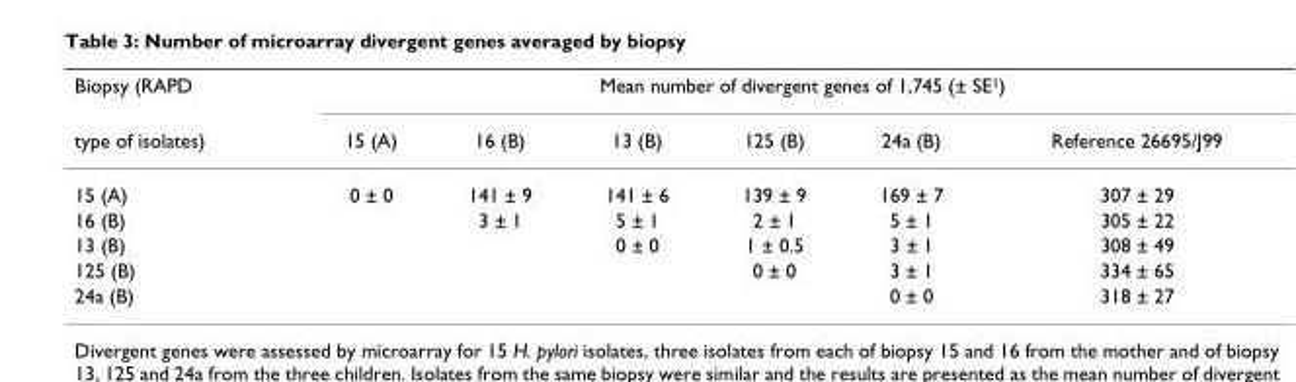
<table><thead><tr><td rowspan="2">Biopsy (RAPD type of isolates)</td><td colspan="6">Mean number of divergent genes of 1,745 (± SE<sup>1</sup>)</td></tr><tr><td>15 (A)</td><td>16 (B)</td><td>13 (B)</td><td>125 (B)</td><td>24a (B)</td><td>Reference 26695/J99</td></tr></thead><tbody><tr><td>15 (A)</td><td>0 ± 0</td><td>141 ± 9</td><td>141 ± 6</td><td>139 ± 9</td><td>169 ± 7</td><td>307 ± 29</td></tr><tr><td>16 (B)</td><td></td><td>3 ± 1</td><td>5 ± 1</td><td>2 ± 1</td><td>5 ± 1</td><td>305 ± 22</td></tr><tr><td>13 (B)</td><td></td><td></td><td>0 ± 0</td><td>1 ± 0.5</td><td>3 ± 1</td><td>308 ± 49</td></tr><tr><td>125 (B)</td><td></td><td></td><td></td><td>0 ± 0</td><td>3 ± 1</td><td>334 ± 65</td></tr><tr><td>24a (B)</td><td></td><td></td><td></td><td></td><td>0 ± 0</td><td>318 ± 27</td></tr></tbody></table>